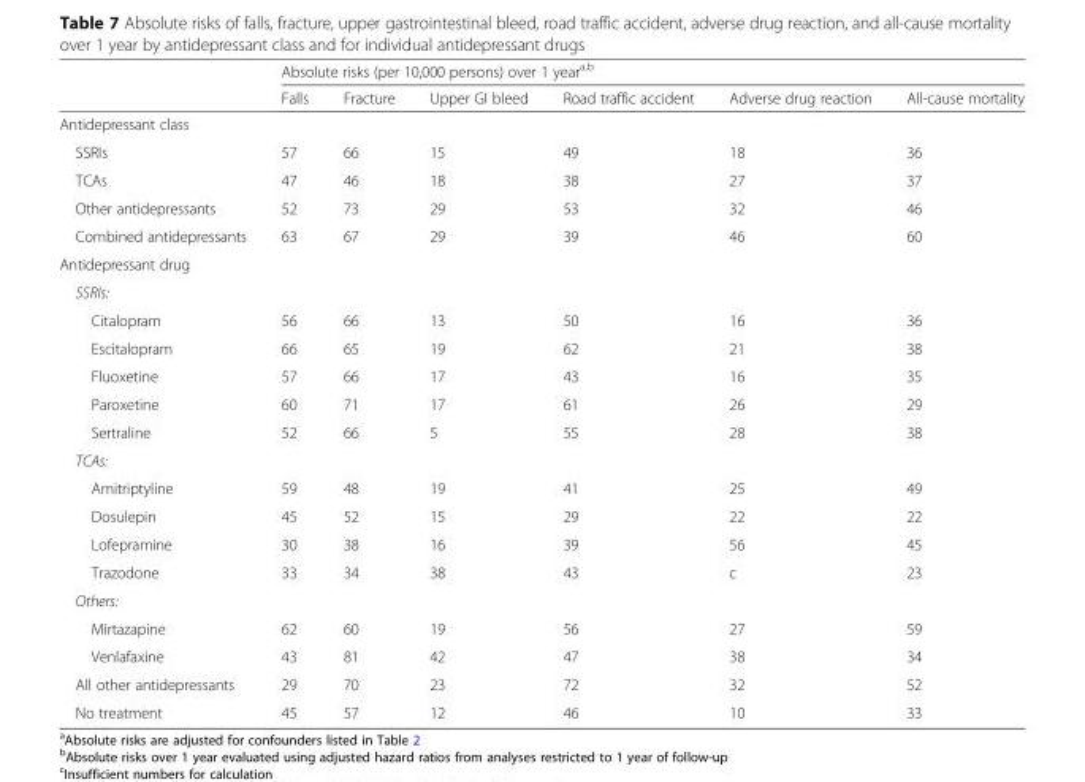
<table><thead><tr><td rowspan="2"></td><td colspan="6">Absolute risks (per 10,000 persons) over 1 year<sup>a,b</sup></td></tr><tr><td>Falls</td><td>Fracture</td><td>Upper GI bleed</td><td>Road traffic accident</td><td>Adverse drug reaction</td><td>All-cause mortality</td></tr></thead><tbody><tr><td colspan="7">Antidepressant class</td></tr><tr><td>SSRIs</td><td>57</td><td>66</td><td>15</td><td>49</td><td>18</td><td>36</td></tr><tr><td>TCAs</td><td>47</td><td>46</td><td>18</td><td>38</td><td>27</td><td>37</td></tr><tr><td>Other antidepressants</td><td>52</td><td>73</td><td>29</td><td>53</td><td>32</td><td>46</td></tr><tr><td>Combined antidepressants</td><td>63</td><td>67</td><td>29</td><td>39</td><td>46</td><td>60</td></tr><tr><td colspan="7">Antidepressant drug</td></tr><tr><td colspan="7">SSRIs:</td></tr><tr><td>Citalopram</td><td>56</td><td>66</td><td>13</td><td>50</td><td>16</td><td>36</td></tr><tr><td>Escitalopram</td><td>66</td><td>65</td><td>19</td><td>62</td><td>21</td><td>38</td></tr><tr><td>Fluoxetine</td><td>57</td><td>66</td><td>17</td><td>43</td><td>16</td><td>35</td></tr><tr><td>Paroxetine</td><td>60</td><td>71</td><td>17</td><td>61</td><td>26</td><td>29</td></tr><tr><td>Sertraline</td><td>52</td><td>66</td><td>5</td><td>55</td><td>28</td><td>38</td></tr><tr><td colspan="7">TCAs:</td></tr><tr><td>Amitriptyline</td><td>59</td><td>48</td><td>19</td><td>41</td><td>25</td><td>49</td></tr><tr><td>Dosulepin</td><td>45</td><td>52</td><td>15</td><td>29</td><td>22</td><td>22</td></tr><tr><td>Lofepramine</td><td>30</td><td>38</td><td>16</td><td>39</td><td>56</td><td>45</td></tr><tr><td>Trazodone</td><td>33</td><td>34</td><td>38</td><td>43</td><td>c</td><td>23</td></tr><tr><td colspan="7">Others:</td></tr><tr><td>Mirtazapine</td><td>62</td><td>60</td><td>19</td><td>56</td><td>27</td><td>59</td></tr><tr><td>Venlafaxine</td><td>43</td><td>81</td><td>42</td><td>47</td><td>38</td><td>34</td></tr><tr><td>All other antidepressants</td><td>29</td><td>70</td><td>23</td><td>72</td><td>32</td><td>52</td></tr><tr><td>No treatment</td><td>45</td><td>57</td><td>12</td><td>46</td><td>10</td><td>33</td></tr></tbody></table>